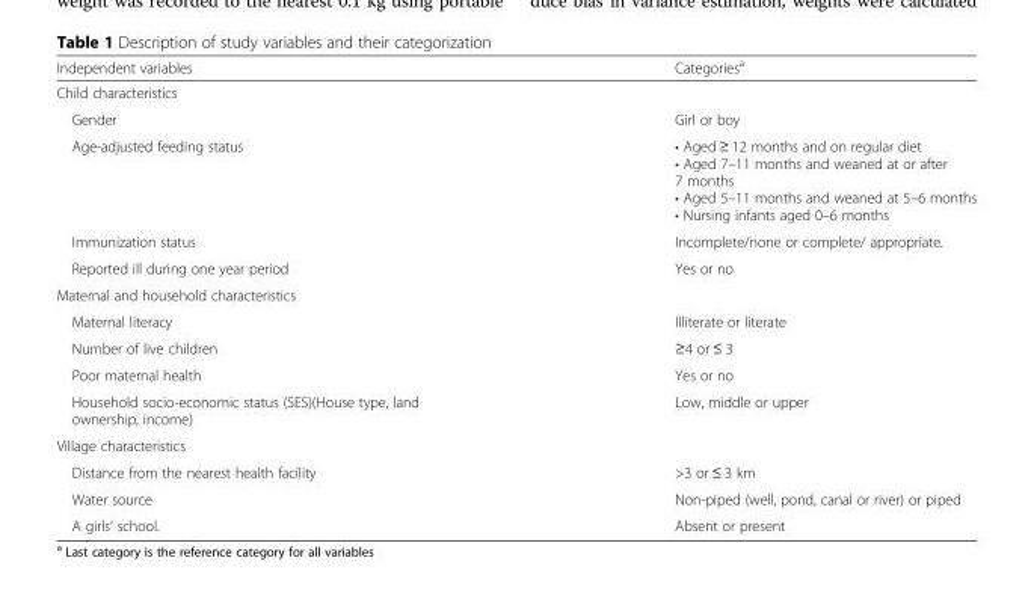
<table><thead><tr><td>Independent variables</td><td>Categories<sup>a</sup></td></tr></thead><tbody><tr><td colspan="2">Child characteristics</td></tr><tr><td>Gender</td><td>Girl or boy</td></tr><tr><td>Age-adjusted feeding status</td><td>• Aged ≥ 12 months and on regular diet • Aged 7–11 months and weaned at or after 7 months • Aged 5–11 months and weaned at 5–6 months • Nursing infants aged 0–6 months</td></tr><tr><td>Immunization status</td><td>Incomplete/none or complete/ appropriate.</td></tr><tr><td>Reported ill during one year period</td><td>Yes or no</td></tr><tr><td colspan="2">Maternal and household characteristics</td></tr><tr><td>Maternal literacy</td><td>Illiterate or literate</td></tr><tr><td>Number of live children</td><td>≥4 or ≤ 3</td></tr><tr><td>Poor maternal health</td><td>Yes or no</td></tr><tr><td>Household socio-economic status (SES)(House type, land ownership, income)</td><td>Low, middle or upper</td></tr><tr><td colspan="2">Village characteristics</td></tr><tr><td>Distance from the nearest health facility</td><td>&gt;3 or ≤ 3 km</td></tr><tr><td>Water source</td><td>Non-piped (well, pond, canal or river) or piped</td></tr><tr><td>A girls’ school.</td><td>Absent or present</td></tr></tbody></table>